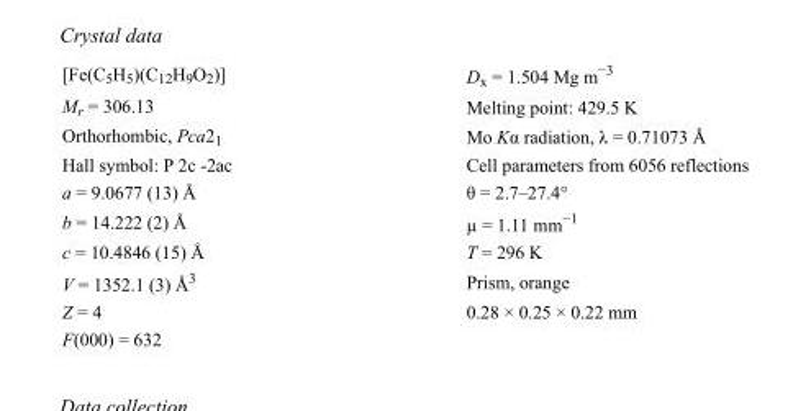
<table><tbody><tr><td>[Fe(C<sub>5</sub>H<sub>5</sub>)(C<sub>12</sub>H<sub>9</sub>O<sub>2</sub>)]</td><td>D<sub>x</sub> = 1.504 Mg m<sup>−3</sup></td></tr><tr><td>M<sub>r</sub> = 306.13</td><td>Melting point: 429.5 K</td></tr><tr><td>Orthorhombic, Pca2<sub>1</sub></td><td>Mo Kα radiation, λ = 0.71073 Å</td></tr><tr><td>Hall symbol: P 2c -2ac</td><td>Cell parameters from 6056 reflections</td></tr><tr><td>a = 9.0677 (13) Å</td><td>θ = 2.7–27.4°</td></tr><tr><td>b = 14.222 (2) Å</td><td>µ = 1.11 mm<sup>−1</sup></td></tr><tr><td>c = 10.4846 (15) Å</td><td>T = 296 K</td></tr><tr><td>V = 1352.1 (3) Å<sup>3</sup></td><td>Prism, orange</td></tr><tr><td>Z = 4</td><td>0.28 × 0.25 × 0.22 mm</td></tr><tr><td>F(000) = 632</td><td></td></tr></tbody></table>